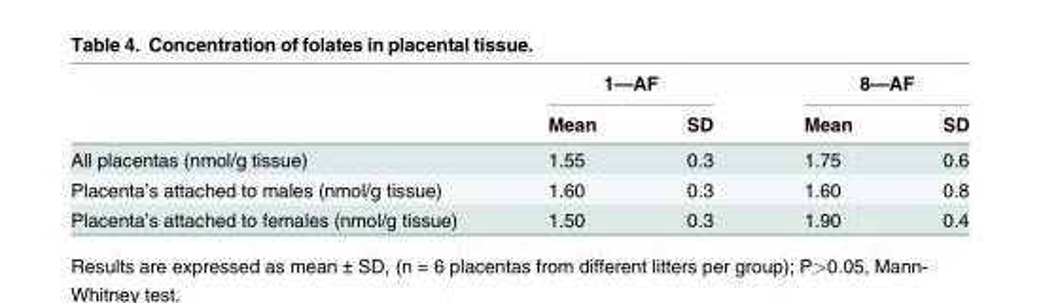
<table><thead><tr><td rowspan="2"></td><td colspan="2">1—AF</td><td colspan="2">8—AF</td></tr><tr><td>Mean</td><td>SD</td><td>Mean</td><td>SD</td></tr></thead><tbody><tr><td>All placentas (nmol/g tissue)</td><td>1.55</td><td>0.3</td><td>1.75</td><td>0.6</td></tr><tr><td>Placenta’s attached to males (nmol/g tissue)</td><td>1.60</td><td>0.3</td><td>1.60</td><td>0.8</td></tr><tr><td>Placenta’s attached to females (nmol/g tissue)</td><td>1.50</td><td>0.3</td><td>1.90</td><td>0.4</td></tr></tbody></table>